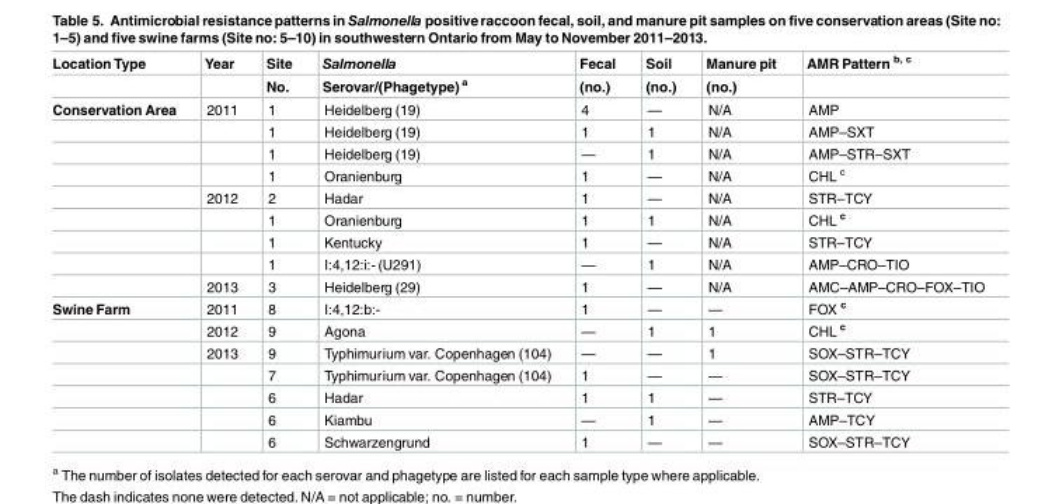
<table><thead><tr><td rowspan="2">Location Type</td><td rowspan="2">Year</td><td rowspan="2">Site No.</td><td rowspan="2">Salmonella Serovar/(Phagetype) <sup>a</sup></td><td rowspan="2">Fecal (no.)</td><td rowspan="2">Soil (no.)</td><td rowspan="2">Manure pit (no.)</td><td rowspan="2">AMR Pattern <sup>b, c</sup></td></tr><tr></tr></thead><tbody><tr><td rowspan="9">Conservation Area</td><td>2011</td><td>1</td><td>Heidelberg (19)</td><td>4</td><td>—</td><td>N/A</td><td>AMP</td></tr><tr><td></td><td>1</td><td>Heidelberg (19)</td><td>1</td><td>1</td><td>N/A</td><td>AMP–SXT</td></tr><tr><td></td><td>1</td><td>Heidelberg (19)</td><td>—</td><td>1</td><td>N/A</td><td>AMP–STR–SXT</td></tr><tr><td></td><td>1</td><td>Oranienburg</td><td>1</td><td>—</td><td>N/A</td><td>CHL <sup>c</sup></td></tr><tr><td>2012</td><td>2</td><td>Hadar</td><td>1</td><td>—</td><td>N/A</td><td>STR–TCY</td></tr><tr><td></td><td>1</td><td>Oranienburg</td><td>1</td><td>1</td><td>N/A</td><td>CHL <sup>c</sup></td></tr><tr><td></td><td>1</td><td>Kentucky</td><td>1</td><td>—</td><td>N/A</td><td>STR–TCY</td></tr><tr><td></td><td>1</td><td>I:4,12:i:- (U291)</td><td>—</td><td>1</td><td>N/A</td><td>AMP–CRO–TIO</td></tr><tr><td>2013</td><td>3</td><td>Heidelberg (29)</td><td>1</td><td>—</td><td>N/A</td><td>AMC–AMP–CRO–FOX–TIO</td></tr><tr><td rowspan="7">Swine Farm</td><td>2011</td><td>8</td><td>I:4,12:b:-</td><td>1</td><td>—</td><td>—</td><td>FOX <sup>c</sup></td></tr><tr><td>2012</td><td>9</td><td>Agona</td><td>—</td><td>1</td><td>1</td><td>CHL <sup>c</sup></td></tr><tr><td>2013</td><td>9</td><td>Typhimurium var. Copenhagen (104)</td><td>—</td><td>—</td><td>1</td><td>SOX–STR–TCY</td></tr><tr><td></td><td>7</td><td>Typhimurium var. Copenhagen (104)</td><td>1</td><td>—</td><td>—</td><td>SOX–STR–TCY</td></tr><tr><td></td><td>6</td><td>Hadar</td><td>1</td><td>1</td><td>—</td><td>STR–TCY</td></tr><tr><td></td><td>6</td><td>Kiambu</td><td>—</td><td>1</td><td>—</td><td>AMP–TCY</td></tr><tr><td></td><td>6</td><td>Schwarzengrund</td><td>1</td><td>—</td><td>—</td><td>SOX–STR–TCY</td></tr></tbody></table>